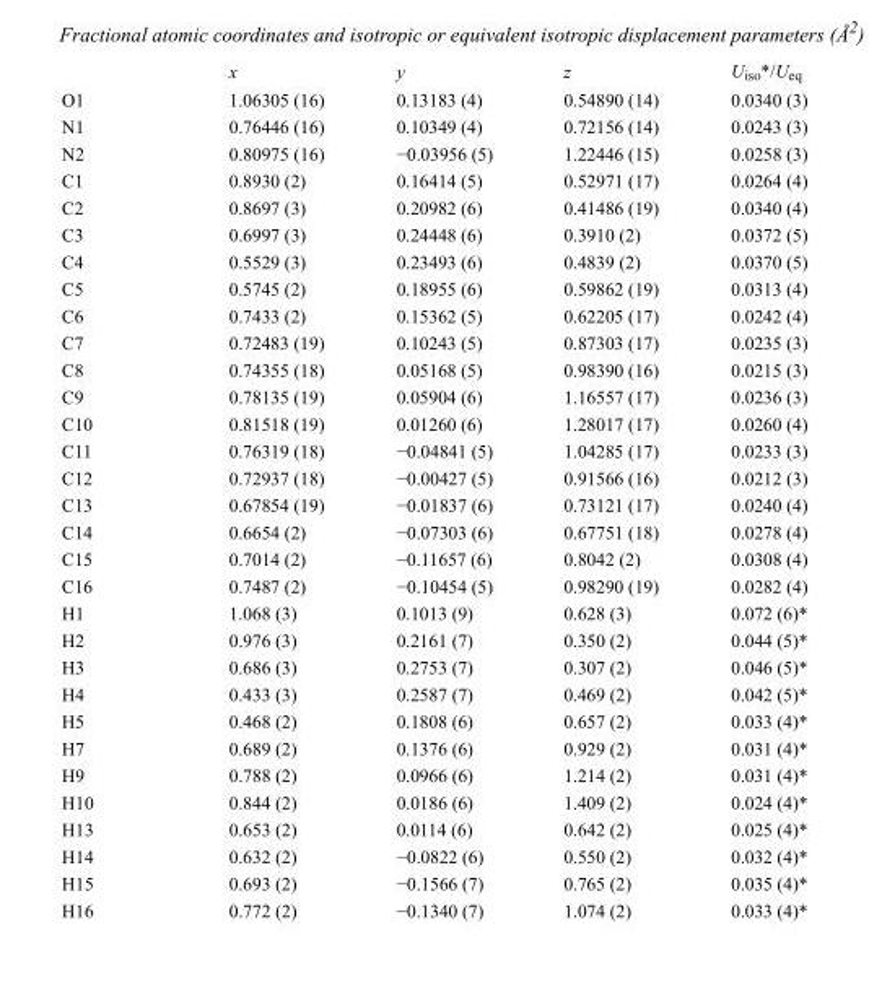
<table><thead><tr><td></td><td>x</td><td>y</td><td>z</td><td>U<sub>iso</sub>*/U<sub>eq</sub></td></tr></thead><tbody><tr><td>O1</td><td>1.06305 (16)</td><td>0.13183 (4)</td><td>0.54890 (14)</td><td>0.0340 (3)</td></tr><tr><td>N1</td><td>0.76446 (16)</td><td>0.10349 (4)</td><td>0.72156 (14)</td><td>0.0243 (3)</td></tr><tr><td>N2</td><td>0.80975 (16)</td><td>−0.03956 (5)</td><td>1.22446 (15)</td><td>0.0258 (3)</td></tr><tr><td>C1</td><td>0.8930 (2)</td><td>0.16414 (5)</td><td>0.52971 (17)</td><td>0.0264 (4)</td></tr><tr><td>C2</td><td>0.8697 (3)</td><td>0.20982 (6)</td><td>0.41486 (19)</td><td>0.0340 (4)</td></tr><tr><td>C3</td><td>0.6997 (3)</td><td>0.24448 (6)</td><td>0.3910 (2)</td><td>0.0372 (5)</td></tr><tr><td>C4</td><td>0.5529 (3)</td><td>0.23493 (6)</td><td>0.4839 (2)</td><td>0.0370 (5)</td></tr><tr><td>C5</td><td>0.5745 (2)</td><td>0.18955 (6)</td><td>0.59862 (19)</td><td>0.0313 (4)</td></tr><tr><td>C6</td><td>0.7433 (2)</td><td>0.15362 (5)</td><td>0.62205 (17)</td><td>0.0242 (4)</td></tr><tr><td>C7</td><td>0.72483 (19)</td><td>0.10243 (5)</td><td>0.87303 (17)</td><td>0.0235 (3)</td></tr><tr><td>C8</td><td>0.74355 (18)</td><td>0.05168 (5)</td><td>0.98390 (16)</td><td>0.0215 (3)</td></tr><tr><td>C9</td><td>0.78135 (19)</td><td>0.05904 (6)</td><td>1.16557 (17)</td><td>0.0236 (3)</td></tr><tr><td>C10</td><td>0.81518 (19)</td><td>0.01260 (6)</td><td>1.28017 (17)</td><td>0.0260 (4)</td></tr><tr><td>C11</td><td>0.76319 (18)</td><td>−0.04841 (5)</td><td>1.04285 (17)</td><td>0.0233 (3)</td></tr><tr><td>C12</td><td>0.72937 (18)</td><td>−0.00427 (5)</td><td>0.91566 (16)</td><td>0.0212 (3)</td></tr><tr><td>C13</td><td>0.67854 (19)</td><td>−0.01837 (6)</td><td>0.73121 (17)</td><td>0.0240 (4)</td></tr><tr><td>C14</td><td>0.6654 (2)</td><td>−0.07303 (6)</td><td>0.67751 (18)</td><td>0.0278 (4)</td></tr><tr><td>C15</td><td>0.7014 (2)</td><td>−0.11657 (6)</td><td>0.8042 (2)</td><td>0.0308 (4)</td></tr><tr><td>C16</td><td>0.7487 (2)</td><td>−0.10454 (5)</td><td>0.98290 (19)</td><td>0.0282 (4)</td></tr><tr><td>H1</td><td>1.068 (3)</td><td>0.1013 (9)</td><td>0.628 (3)</td><td>0.072 (6)*</td></tr><tr><td>H2</td><td>0.976 (3)</td><td>0.2161 (7)</td><td>0.350 (2)</td><td>0.044 (5)*</td></tr><tr><td>H3</td><td>0.686 (3)</td><td>0.2753 (7)</td><td>0.307 (2)</td><td>0.046 (5)*</td></tr><tr><td>H4</td><td>0.433 (3)</td><td>0.2587 (7)</td><td>0.469 (2)</td><td>0.042 (5)*</td></tr><tr><td>H5</td><td>0.468 (2)</td><td>0.1808 (6)</td><td>0.657 (2)</td><td>0.033 (4)*</td></tr><tr><td>H7</td><td>0.689 (2)</td><td>0.1376 (6)</td><td>0.929 (2)</td><td>0.031 (4)*</td></tr><tr><td>H9</td><td>0.788 (2)</td><td>0.0966 (6)</td><td>1.214 (2)</td><td>0.031 (4)*</td></tr><tr><td>H10</td><td>0.844 (2)</td><td>0.0186 (6)</td><td>1.409 (2)</td><td>0.024 (4)*</td></tr><tr><td>H13</td><td>0.653 (2)</td><td>0.0114 (6)</td><td>0.642 (2)</td><td>0.025 (4)*</td></tr><tr><td>H14</td><td>0.632 (2)</td><td>−0.0822 (6)</td><td>0.550 (2)</td><td>0.032 (4)*</td></tr><tr><td>H15</td><td>0.693 (2)</td><td>−0.1566 (7)</td><td>0.765 (2)</td><td>0.035 (4)*</td></tr><tr><td>H16</td><td>0.772 (2)</td><td>−0.1340 (7)</td><td>1.074 (2)</td><td>0.033 (4)*</td></tr></tbody></table>